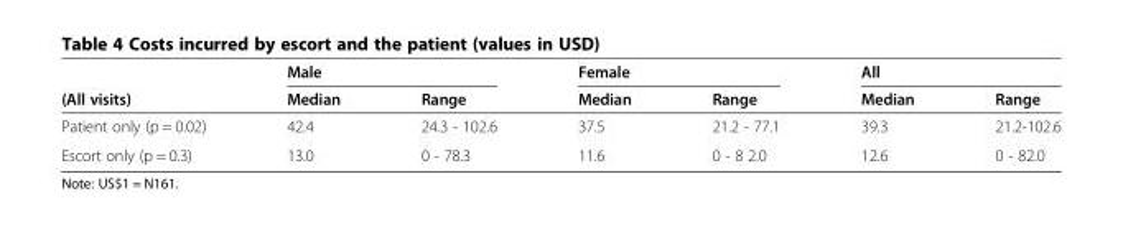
<table><thead><tr><td rowspan="2">(All visits)</td><td colspan="2">Male</td><td colspan="2">Female</td><td colspan="2">All</td></tr><tr><td>Median</td><td>Range</td><td>Median</td><td>Range</td><td>Median</td><td>Range</td></tr></thead><tbody><tr><td>Patient only (p = 0.02)</td><td>42.4</td><td>24.3 - 102.6</td><td>37.5</td><td>21.2 - 77.1</td><td>39.3</td><td>21.2-102.6</td></tr><tr><td>Escort only (p = 0.3)</td><td>13.0</td><td>0 - 78.3</td><td>11.6</td><td>0 - 8 2.0</td><td>12.6</td><td>0 - 82.0</td></tr></tbody></table>